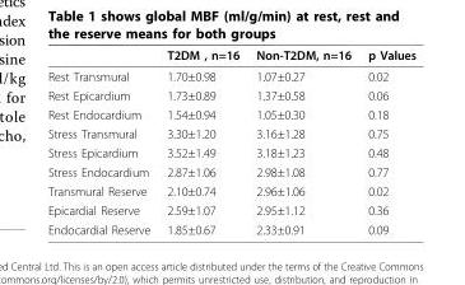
<table><thead><tr><td></td><td>T2DM , n=16</td><td>Non-T2DM, n=16</td><td>p Values</td></tr></thead><tbody><tr><td>Rest Transmural</td><td>1.70±0.98</td><td>1.07±0.27</td><td>0.02</td></tr><tr><td>Rest Epicardium</td><td>1.73±0.89</td><td>1.37±0.58</td><td>0.06</td></tr><tr><td>Rest Endocardium</td><td>1.54±0.94</td><td>1.05±0.30</td><td>0.18</td></tr><tr><td>Stress Transmural</td><td>3.30±1.20</td><td>3.16±1.28</td><td>0.75</td></tr><tr><td>Stress Epicardium</td><td>3.52±1.49</td><td>3.18±1.23</td><td>0.48</td></tr><tr><td>Stress Endocardium</td><td>2.87±1.06</td><td>2.98±1.08</td><td>0.77</td></tr><tr><td>Transmural Reserve</td><td>2.10±0.74</td><td>2.96±1.06</td><td>0.02</td></tr><tr><td>Epicardial Reserve</td><td>2.59±1.07</td><td>2.95±1.12</td><td>0.36</td></tr><tr><td>Endocardial Reserve</td><td>1.85±0.67</td><td>2.33±0.91</td><td>0.09</td></tr></tbody></table>